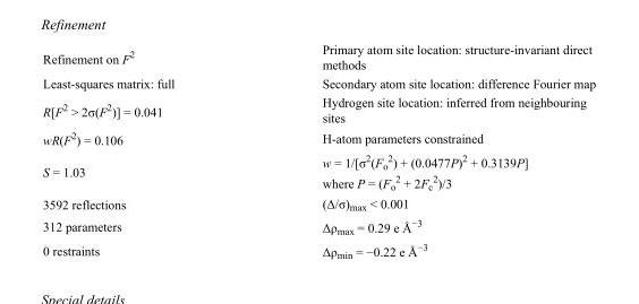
<table><tbody><tr><td>Refinement on F<sup>2</sup></td><td>Primary atom site location: structure-invariant direct methods</td></tr><tr><td>Least-squares matrix: full</td><td>Secondary atom site location: difference Fourier map</td></tr><tr><td>R[F<sup>2</sup> &gt; 2σ(F<sup>2</sup>)] = 0.041</td><td>Hydrogen site location: inferred from neighbouring sites</td></tr><tr><td>wR(F<sup>2</sup>) = 0.106</td><td>H-atom parameters constrained</td></tr><tr><td>S = 1.03</td><td>w = 1/[σ<sup>2</sup>(F<sub>o</sub> <sup>2</sup>) + (0.0477P)<sup>2</sup> + 0.3139P] where P = (F<sub>o</sub> <sup>2</sup> + 2F<sub>c</sub> <sup>2</sup>)/3</td></tr><tr><td>3592 reflections</td><td>(Δ/σ)<sub>max</sub> &lt; 0.001</td></tr><tr><td>312 parameters</td><td>Δρ<sub>max</sub> = 0.29 e Å<sup>−3</sup></td></tr><tr><td>0 restraints</td><td>Δρ<sub>min</sub> = −0.22 e Å<sup>−3</sup></td></tr></tbody></table>